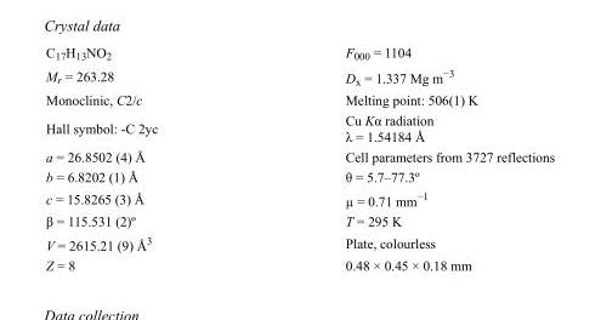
<table><tbody><tr><td>C<sub>17</sub>H<sub>13</sub>NO<sub>2</sub></td><td>F000 = 1104</td></tr><tr><td>M<sub>r</sub> = 263.28</td><td>D<sub>x</sub> = 1.337 Mg m<sup>−3</sup></td></tr><tr><td>Monoclinic, C2/c</td><td>Melting point: 506(1) K</td></tr><tr><td>Hall symbol: -C 2yc</td><td>Cu Kα radiation λ = 1.54184 Å</td></tr><tr><td>a = 26.8502 (4) Å</td><td>Cell parameters from 3727 reflections</td></tr><tr><td>b = 6.8202 (1) Å</td><td>θ = 5.7–77.3º</td></tr><tr><td>c = 15.8265 (3) Å</td><td>µ = 0.71 mm<sup>−1</sup></td></tr><tr><td>β = 115.531 (2)º</td><td>T = 295 K</td></tr><tr><td>V = 2615.21 (9) Å<sup>3</sup></td><td>Plate, colourless</td></tr><tr><td>Z = 8</td><td>0.48 × 0.45 × 0.18 mm</td></tr></tbody></table>